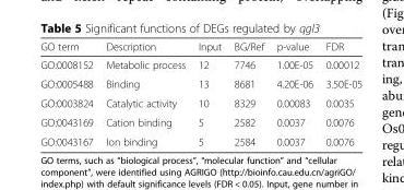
<table><thead><tr><td>GO term</td><td>Description</td><td>Input</td><td>BG/Ref</td><td>p-value</td><td>FDR</td></tr></thead><tbody><tr><td>GO:0008152</td><td>Metabolic process</td><td>12</td><td>7746</td><td>1.00E-05</td><td>0.00012</td></tr><tr><td>GO:0005488</td><td>Binding</td><td>13</td><td>8681</td><td>4.20E-06</td><td>3.50E-05</td></tr><tr><td>GO:0003824</td><td>Catalytic activity</td><td>10</td><td>8329</td><td>0.00083</td><td>0.0035</td></tr><tr><td>GO:0043169</td><td>Cation binding</td><td>5</td><td>2582</td><td>0.0037</td><td>0.0076</td></tr><tr><td>GO:0043167</td><td>Ion binding</td><td>5</td><td>2584</td><td>0.0037</td><td>0.0076</td></tr></tbody></table>